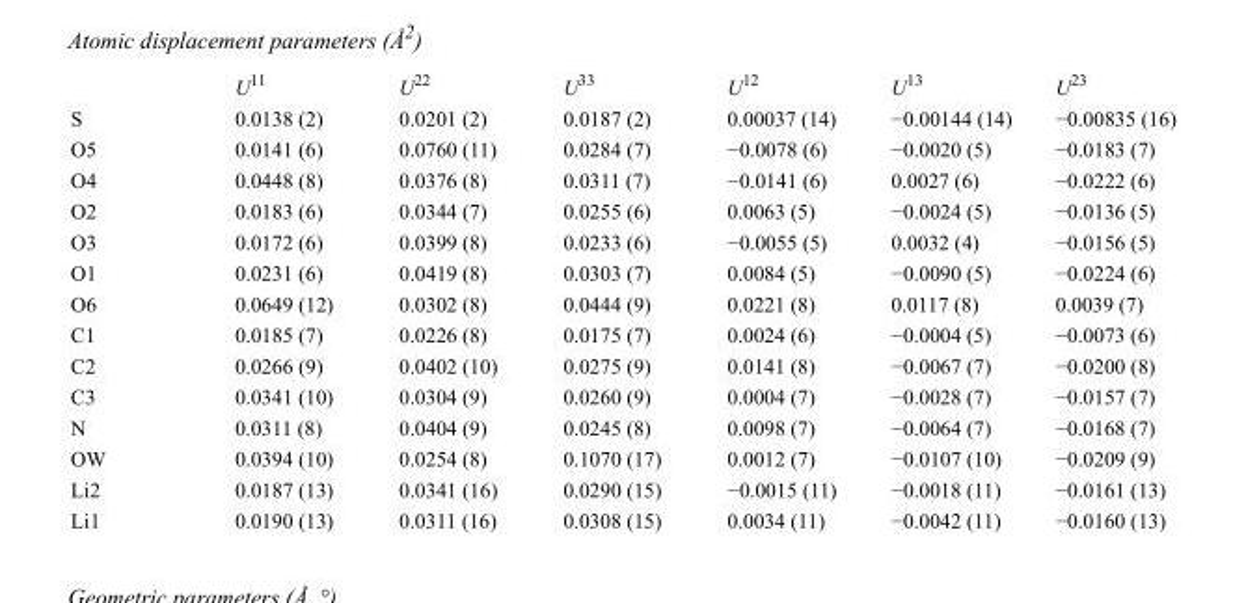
<table><thead><tr><td></td><td>U<sup>11</sup></td><td>U<sup>22</sup></td><td>U<sup>33</sup></td><td>U<sup>12</sup></td><td>U<sup>13</sup></td><td>U<sup>23</sup></td></tr></thead><tbody><tr><td>S</td><td>0.0138 (2)</td><td>0.0201 (2)</td><td>0.0187 (2)</td><td>0.00037 (14)</td><td>−0.00144 (14)</td><td>−0.00835 (16)</td></tr><tr><td>O5</td><td>0.0141 (6)</td><td>0.0760 (11)</td><td>0.0284 (7)</td><td>−0.0078 (6)</td><td>−0.0020 (5)</td><td>−0.0183 (7)</td></tr><tr><td>O4</td><td>0.0448 (8)</td><td>0.0376 (8)</td><td>0.0311 (7)</td><td>−0.0141 (6)</td><td>0.0027 (6)</td><td>−0.0222 (6)</td></tr><tr><td>O2</td><td>0.0183 (6)</td><td>0.0344 (7)</td><td>0.0255 (6)</td><td>0.0063 (5)</td><td>−0.0024 (5)</td><td>−0.0136 (5)</td></tr><tr><td>O3</td><td>0.0172 (6)</td><td>0.0399 (8)</td><td>0.0233 (6)</td><td>−0.0055 (5)</td><td>0.0032 (4)</td><td>−0.0156 (5)</td></tr><tr><td>O1</td><td>0.0231 (6)</td><td>0.0419 (8)</td><td>0.0303 (7)</td><td>0.0084 (5)</td><td>−0.0090 (5)</td><td>−0.0224 (6)</td></tr><tr><td>O6</td><td>0.0649 (12)</td><td>0.0302 (8)</td><td>0.0444 (9)</td><td>0.0221 (8)</td><td>0.0117 (8)</td><td>0.0039 (7)</td></tr><tr><td>C1</td><td>0.0185 (7)</td><td>0.0226 (8)</td><td>0.0175 (7)</td><td>0.0024 (6)</td><td>−0.0004 (5)</td><td>−0.0073 (6)</td></tr><tr><td>C2</td><td>0.0266 (9)</td><td>0.0402 (10)</td><td>0.0275 (9)</td><td>0.0141 (8)</td><td>−0.0067 (7)</td><td>−0.0200 (8)</td></tr><tr><td>C3</td><td>0.0341 (10)</td><td>0.0304 (9)</td><td>0.0260 (9)</td><td>0.0004 (7)</td><td>−0.0028 (7)</td><td>−0.0157 (7)</td></tr><tr><td>N</td><td>0.0311 (8)</td><td>0.0404 (9)</td><td>0.0245 (8)</td><td>0.0098 (7)</td><td>−0.0064 (7)</td><td>−0.0168 (7)</td></tr><tr><td>OW</td><td>0.0394 (10)</td><td>0.0254 (8)</td><td>0.1070 (17)</td><td>0.0012 (7)</td><td>−0.0107 (10)</td><td>−0.0209 (9)</td></tr><tr><td>Li2</td><td>0.0187 (13)</td><td>0.0341 (16)</td><td>0.0290 (15)</td><td>−0.0015 (11)</td><td>−0.0018 (11)</td><td>−0.0161 (13)</td></tr><tr><td>Li1</td><td>0.0190 (13)</td><td>0.0311 (16)</td><td>0.0308 (15)</td><td>0.0034 (11)</td><td>−0.0042 (11)</td><td>−0.0160 (13)</td></tr></tbody></table>